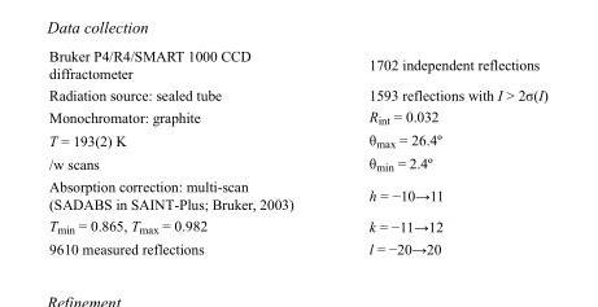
<table><tbody><tr><td>Bruker P4/R4/SMART 1000 CCD diffractometer</td><td>1702 independent reflections</td></tr><tr><td>Radiation source: sealed tube</td><td>1593 reflections with I &gt; 2σ(I)</td></tr><tr><td>Monochromator: graphite</td><td>R<sub>int</sub> = 0.032</td></tr><tr><td>T = 193(2) K</td><td>θ<sub>max</sub> = 26.4º</td></tr><tr><td>/w scans</td><td>θ<sub>min</sub> = 2.4º</td></tr><tr><td>Absorption correction: multi-scan (SADABS in SAINT-Plus; Bruker, 2003)</td><td>h = −10→11</td></tr><tr><td>T<sub>min</sub> = 0.865, T<sub>max</sub> = 0.982</td><td>k = −11→12</td></tr><tr><td>9610 measured reflections</td><td>l = −20→20</td></tr></tbody></table>